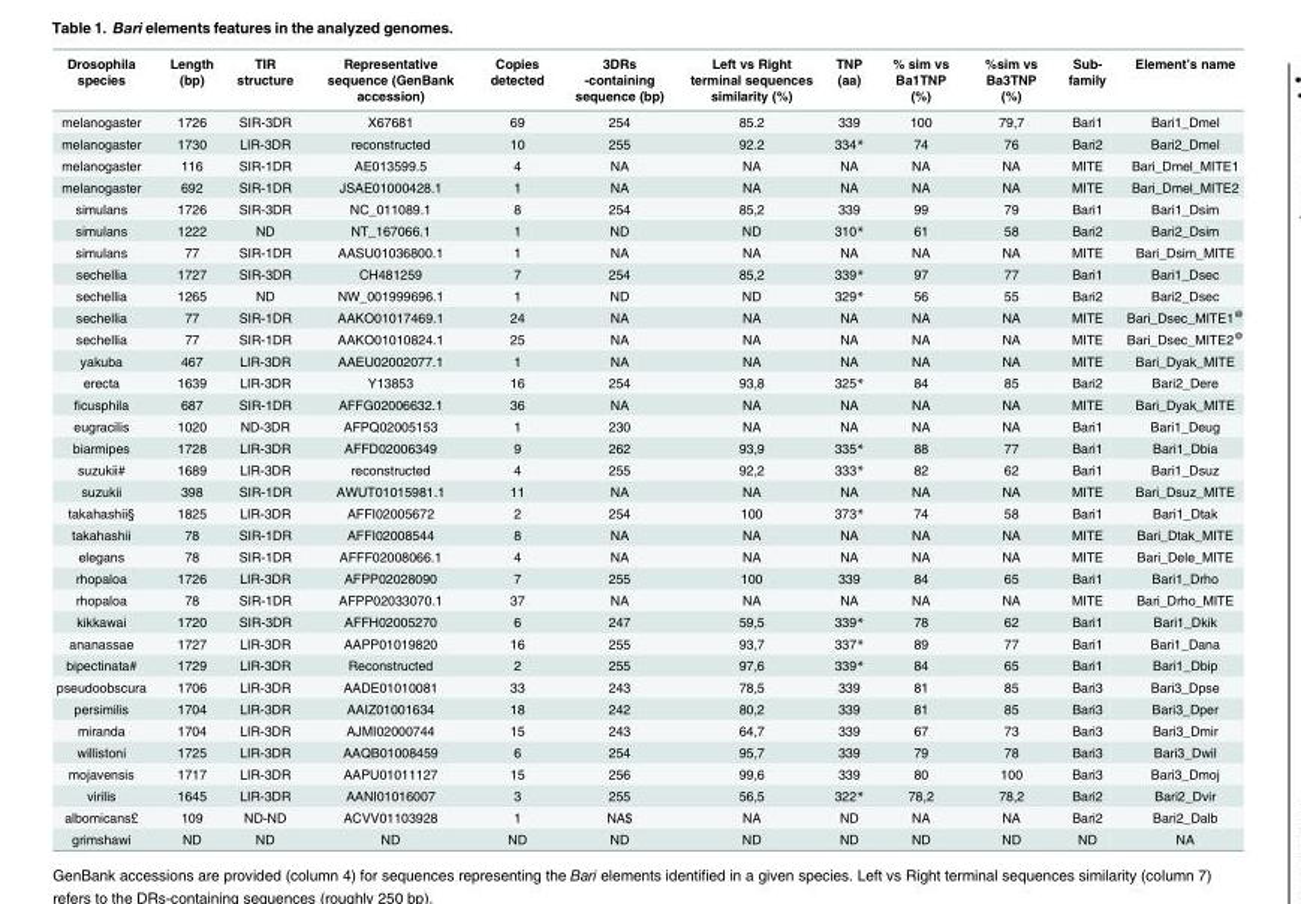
<table><thead><tr><td>Drosophila species</td><td>Length (bp)</td><td>TIR structure</td><td>Representative sequence (GenBank accession)</td><td>Copies detected</td><td>3DRs -containing sequence (bp)</td><td>Left vs Right terminal sequences similarity (%)</td><td>TNP (aa)</td><td>% sim vs Ba1TNP (%)</td><td>%sim vs Ba3TNP (%)</td><td>Sub- family</td><td>Element’s name</td></tr></thead><tbody><tr><td>melanogaster</td><td>1726</td><td>SIR-3DR</td><td>X67681</td><td>69</td><td>254</td><td>85.2</td><td>339</td><td>100</td><td>79,7</td><td>Bari1</td><td>Bari1_Dmel</td></tr><tr><td>melanogaster</td><td>1730</td><td>LIR-3DR</td><td>reconstructed</td><td>10</td><td>255</td><td>92.2</td><td>334*</td><td>74</td><td>76</td><td>Bari2</td><td>Bari2_Dmel</td></tr><tr><td>melanogaster</td><td>116</td><td>SIR-1DR</td><td>AE013599.5</td><td>4</td><td>NA</td><td>NA</td><td>NA</td><td>NA</td><td>NA</td><td>MITE</td><td>Bari_Dmel_MITE1</td></tr><tr><td>melanogaster</td><td>692</td><td>SIR-1DR</td><td>JSAE01000428.1</td><td>1</td><td>NA</td><td>NA</td><td>NA</td><td>NA</td><td>NA</td><td>MITE</td><td>Bari_Dmel_MITE2</td></tr><tr><td>simulans</td><td>1726</td><td>SIR-3DR</td><td>NC_011089.1</td><td>8</td><td>254</td><td>85,2</td><td>339</td><td>99</td><td>79</td><td>Bari1</td><td>Bari1_Dsim</td></tr><tr><td>simulans</td><td>1222</td><td>ND</td><td>NT_167066.1</td><td>1</td><td>ND</td><td>ND</td><td>310*</td><td>61</td><td>58</td><td>Bari2</td><td>Bari2_Dsim</td></tr><tr><td>simulans</td><td>77</td><td>SIR-1DR</td><td>AASU01036800.1</td><td>1</td><td>NA</td><td>NA</td><td>NA</td><td>NA</td><td>NA</td><td>MITE</td><td>Bari_Dsim_MITE</td></tr><tr><td>sechellia</td><td>1727</td><td>SIR-3DR</td><td>CH481259</td><td>7</td><td>254</td><td>85,2</td><td>339*</td><td>97</td><td>77</td><td>Bari1</td><td>Bari1_Dsec</td></tr><tr><td>sechellia</td><td>1265</td><td>ND</td><td>NW_001999696.1</td><td>1</td><td>ND</td><td>ND</td><td>329*</td><td>56</td><td>55</td><td>Bari2</td><td>Bari2_Dsec</td></tr><tr><td>sechellia</td><td>77</td><td>SIR-1DR</td><td>AAKO01017469.1</td><td>24</td><td>NA</td><td>NA</td><td>NA</td><td>NA</td><td>NA</td><td>MITE</td><td>Bari_Dsec_MITE1<sup>@</sup></td></tr><tr><td>sechellia</td><td>77</td><td>SIR-1DR</td><td>AAKO01010824.1</td><td>25</td><td>NA</td><td>NA</td><td>NA</td><td>NA</td><td>NA</td><td>MITE</td><td>Bari_Dsec_MITE2<sup>@</sup></td></tr><tr><td>yakuba</td><td>467</td><td>LIR-3DR</td><td>AAEU02002077.1</td><td>1</td><td>NA</td><td>NA</td><td>NA</td><td>NA</td><td>NA</td><td>MITE</td><td>Bari_Dyak_MITE</td></tr><tr><td>erecta</td><td>1639</td><td>LIR-3DR</td><td>Y13853</td><td>16</td><td>254</td><td>93,8</td><td>325*</td><td>84</td><td>85</td><td>Bari2</td><td>Bari2_Dere</td></tr><tr><td>ficusphila</td><td>687</td><td>SIR-1DR</td><td>AFFG02006632.1</td><td>36</td><td>NA</td><td>NA</td><td>NA</td><td>NA</td><td>NA</td><td>MITE</td><td>Bari_Dyak_MITE</td></tr><tr><td>eugracilis</td><td>1020</td><td>ND-3DR</td><td>AFPQ02005153</td><td>1</td><td>230</td><td>NA</td><td>NA</td><td>NA</td><td>NA</td><td>Bari1</td><td>Bari1_Deug</td></tr><tr><td>biarmipes</td><td>1728</td><td>LIR-3DR</td><td>AFFD02006349</td><td>9</td><td>262</td><td>93,9</td><td>335*</td><td>88</td><td>77</td><td>Bari1</td><td>Bari1_Dbia</td></tr><tr><td>suzukii#</td><td>1689</td><td>LIR-3DR</td><td>reconstructed</td><td>4</td><td>255</td><td>92,2</td><td>333*</td><td>82</td><td>62</td><td>Bari1</td><td>Bari1_Dsuz</td></tr><tr><td>suzukii</td><td>398</td><td>SIR-1DR</td><td>AWUT01015981.1</td><td>11</td><td>NA</td><td>NA</td><td>NA</td><td>NA</td><td>NA</td><td>MITE</td><td>Bari_Dsuz_MITE</td></tr><tr><td>takahashii§</td><td>1825</td><td>LIR-3DR</td><td>AFFI02005672</td><td>2</td><td>254</td><td>100</td><td>373*</td><td>74</td><td>58</td><td>Bari1</td><td>Bari1_Dtak</td></tr><tr><td>takahashii</td><td>78</td><td>SIR-1DR</td><td>AFFI02008544</td><td>8</td><td>NA</td><td>NA</td><td>NA</td><td>NA</td><td>NA</td><td>MITE</td><td>Bari_Dtak_MITE</td></tr><tr><td>elegans</td><td>78</td><td>SIR-1DR</td><td>AFFF02008066.1</td><td>4</td><td>NA</td><td>NA</td><td>NA</td><td>NA</td><td>NA</td><td>MITE</td><td>Bari_Dele_MITE</td></tr><tr><td>rhopaloa</td><td>1726</td><td>LIR-3DR</td><td>AFPP02028090</td><td>7</td><td>255</td><td>100</td><td>339</td><td>84</td><td>65</td><td>Bari1</td><td>Bari1_Drho</td></tr><tr><td>rhopaloa</td><td>78</td><td>SIR-1DR</td><td>AFPP02033070.1</td><td>37</td><td>NA</td><td>NA</td><td>NA</td><td>NA</td><td>NA</td><td>MITE</td><td>Bari_Drho_MITE</td></tr><tr><td>kikkawai</td><td>1720</td><td>SIR-3DR</td><td>AFFH02005270</td><td>6</td><td>247</td><td>59,5</td><td>339*</td><td>78</td><td>62</td><td>Bari1</td><td>Bari1_Dkik</td></tr><tr><td>ananassae</td><td>1727</td><td>LIR-3DR</td><td>AAPP01019820</td><td>16</td><td>255</td><td>93,7</td><td>337*</td><td>89</td><td>77</td><td>Bari1</td><td>Bari1_Dana</td></tr><tr><td>bipectinata#</td><td>1729</td><td>LIR-3DR</td><td>Reconstructed</td><td>2</td><td>255</td><td>97,6</td><td>339*</td><td>84</td><td>65</td><td>Bari1</td><td>Bari1_Dbip</td></tr><tr><td>pseudoobscura</td><td>1706</td><td>LIR-3DR</td><td>AADE01010081</td><td>33</td><td>243</td><td>78,5</td><td>339</td><td>81</td><td>85</td><td>Bari3</td><td>Bari3_Dpse</td></tr><tr><td>persimilis</td><td>1704</td><td>LIR-3DR</td><td>AAIZ01001634</td><td>18</td><td>242</td><td>80,2</td><td>339</td><td>81</td><td>85</td><td>Bari3</td><td>Bari3_Dper</td></tr><tr><td>miranda</td><td>1704</td><td>LIR-3DR</td><td>AJMI02000744</td><td>15</td><td>243</td><td>64,7</td><td>339</td><td>67</td><td>73</td><td>Bari3</td><td>Bari3_Dmir</td></tr><tr><td>willistoni</td><td>1725</td><td>LIR-3DR</td><td>AAQB01008459</td><td>6</td><td>254</td><td>95,7</td><td>339</td><td>79</td><td>78</td><td>Bari3</td><td>Bari3_Dwil</td></tr><tr><td>mojavensis</td><td>1717</td><td>LIR-3DR</td><td>AAPU01011127</td><td>15</td><td>256</td><td>99,6</td><td>339</td><td>80</td><td>100</td><td>Bari3</td><td>Bari3_Dmoj</td></tr><tr><td>virilis</td><td>1645</td><td>LIR-3DR</td><td>AANI01016007</td><td>3</td><td>255</td><td>56,5</td><td>322*</td><td>78,2</td><td>78,2</td><td>Bari2</td><td>Bari2_Dvir</td></tr><tr><td>albomicans£</td><td>109</td><td>ND-ND</td><td>ACVV01103928</td><td>1</td><td>NA$</td><td>NA</td><td>ND</td><td>NA</td><td>NA</td><td>Bari2</td><td>Bari2_Dalb</td></tr><tr><td>grimshawi</td><td>ND</td><td>ND</td><td>ND</td><td>ND</td><td>ND</td><td>ND</td><td>ND</td><td>ND</td><td>ND</td><td>ND</td><td>NA</td></tr></tbody></table>